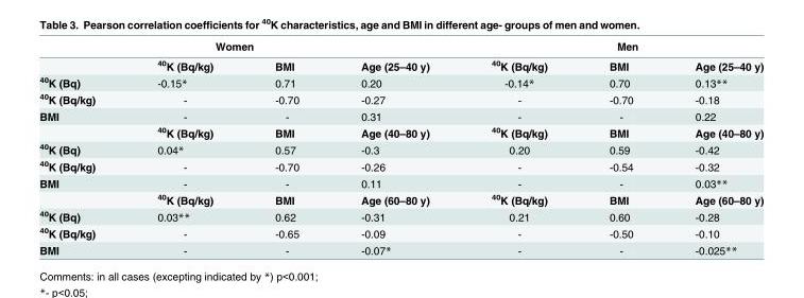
<table><thead><tr><td colspan="4">Women</td><td colspan="3">Men</td></tr><tr><td></td><td><sup>40</sup>K (Bq/kg)</td><td>BMI</td><td>Age (25–40 y)</td><td><sup>40</sup>K (Bq/kg)</td><td>BMI</td><td>Age (25–40 y)</td></tr></thead><tbody><tr><td><sup>40</sup>K (Bq)</td><td>-0.15*</td><td>0.71</td><td>0.20</td><td>-0.14*</td><td>0.70</td><td>0.13**</td></tr><tr><td><sup>40</sup>K (Bq/kg)</td><td>-</td><td>-0.70</td><td>-0.27</td><td>-</td><td>-0.70</td><td>-0.18</td></tr><tr><td rowspan="2">BMI</td><td>-</td><td>-</td><td>0.31</td><td>-</td><td>-</td><td>0.22</td></tr><tr><td><sup>40</sup>K (Bq/kg)</td><td>BMI</td><td>Age (40–80 y)</td><td><sup>40</sup>K (Bq/kg)</td><td>BMI</td><td>Age (40–80 y)</td></tr><tr><td><sup>40</sup>K (Bq)</td><td>0.04*</td><td>0.57</td><td>-0.3</td><td>0.20</td><td>0.59</td><td>-0.42</td></tr><tr><td><sup>40</sup>K (Bq/kg)</td><td>-</td><td>-0.70</td><td>-0.26</td><td>-</td><td>-0.54</td><td>-0.32</td></tr><tr><td rowspan="2">BMI</td><td>-</td><td>-</td><td>0.11</td><td>-</td><td>-</td><td>0.03**</td></tr><tr><td><sup>40</sup>K (Bq/kg)</td><td>BMI</td><td>Age (60–80 y)</td><td><sup>40</sup>K (Bq/kg)</td><td>BMI</td><td>Age (60–80 y)</td></tr><tr><td><sup>40</sup>K (Bq)</td><td>0.03**</td><td>0.62</td><td>-0.31</td><td>0.21</td><td>0.60</td><td>-0.28</td></tr><tr><td><sup>40</sup>K (Bq/kg)</td><td>-</td><td>-0.65</td><td>-0.09</td><td>-</td><td>-0.50</td><td>-0.10</td></tr><tr><td>BMI</td><td>-</td><td>-</td><td>-0.07*</td><td>-</td><td>-</td><td>-0.025**</td></tr></tbody></table>